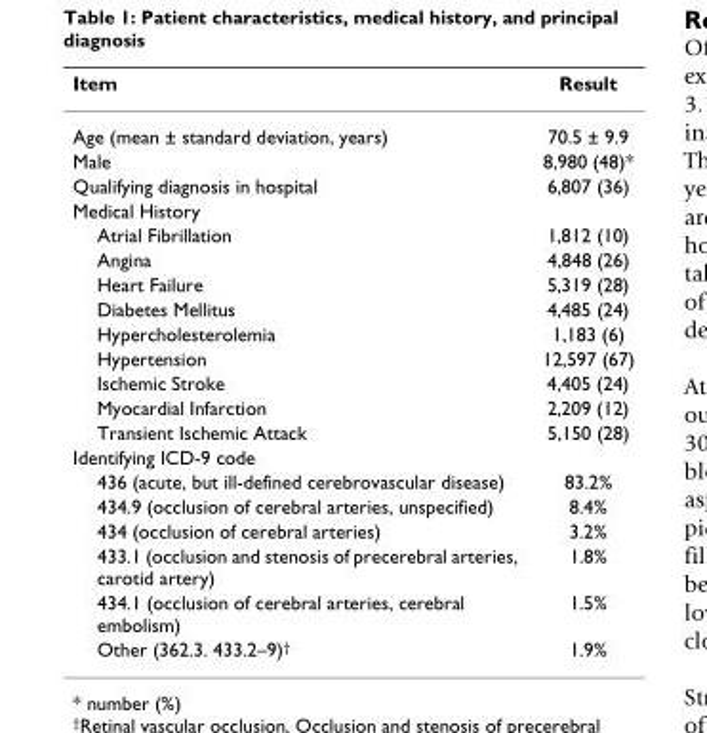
<table><thead><tr><td>Item</td><td>Result</td></tr></thead><tbody><tr><td>Age (mean ± standard deviation, years)</td><td>70.5 ± 9.9</td></tr><tr><td>Male</td><td>8,980 (48)*</td></tr><tr><td>Qualifying diagnosis in hospital</td><td>6,807 (36)</td></tr><tr><td colspan="2">Medical History</td></tr><tr><td>Atrial Fibrillation</td><td>1,812 (10)</td></tr><tr><td>Angina</td><td>4,848 (26)</td></tr><tr><td>Heart Failure</td><td>5,319 (28)</td></tr><tr><td>Diabetes Mellitus</td><td>4,485 (24)</td></tr><tr><td>Hypercholesterolemia</td><td>1,183 (6)</td></tr><tr><td>Hypertension</td><td>12,597 (67)</td></tr><tr><td>Ischemic Stroke</td><td>4,405 (24)</td></tr><tr><td>Myocardial Infarction</td><td>2,209 (12)</td></tr><tr><td>Transient Ischemic Attack</td><td>5,150 (28)</td></tr><tr><td colspan="2">Identifying ICD-9 code</td></tr><tr><td>436 (acute, but ill-defined cerebrovascular disease)</td><td>83.2%</td></tr><tr><td>434.9 (occlusion of cerebral arteries, unspecified)</td><td>8.4%</td></tr><tr><td>434 (occlusion of cerebral arteries)</td><td>3.2%</td></tr><tr><td>433.1 (occlusion and stenosis of precerebral arteries, carotid artery)</td><td>1.8%</td></tr><tr><td>434.1 (occlusion of cerebral arteries, cerebral embolism)</td><td>1.5%</td></tr><tr><td>Other (362.3. 433.2–9)†</td><td>1.9%</td></tr></tbody></table>